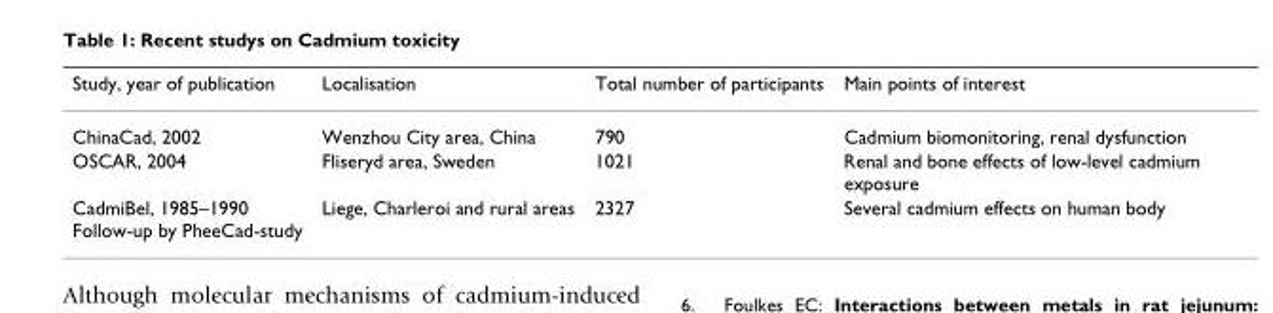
<table><thead><tr><td>Study, year of publication</td><td>Localisation</td><td>Total number of participants</td><td>Main points of interest</td></tr></thead><tbody><tr><td>ChinaCad, 2002</td><td>Wenzhou City area, China</td><td>790</td><td>Cadmium biomonitoring, renal dysfunction</td></tr><tr><td>OSCAR, 2004</td><td>Fliseryd area, Sweden</td><td>1021</td><td>Renal and bone effects of low-level cadmium exposure</td></tr><tr><td>CadmiBel, 1985–1990 Follow-up by PheeCad-study</td><td>Liege, Charleroi and rural areas</td><td>2327</td><td>Several cadmium effects on human body</td></tr></tbody></table>